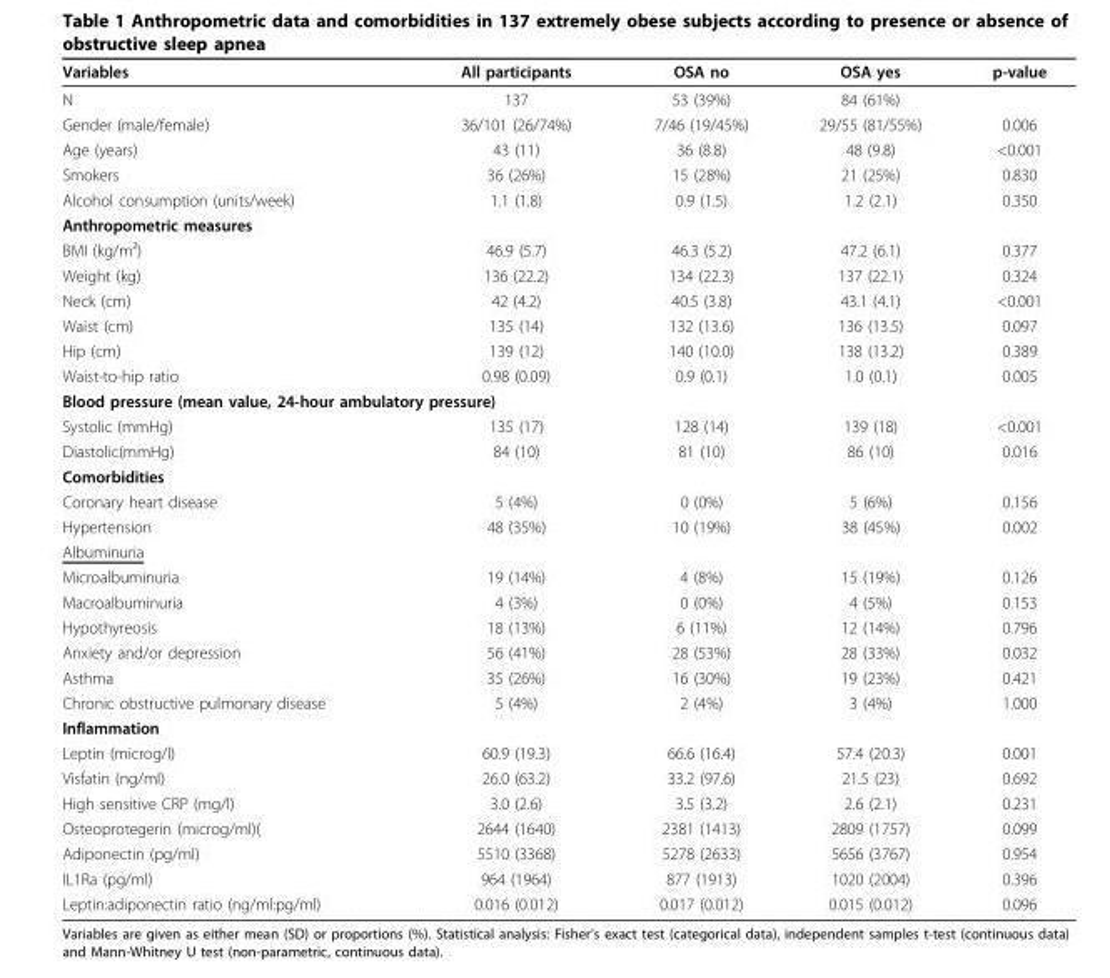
<table><thead><tr><td>Variables</td><td>All participants</td><td>OSA no</td><td>OSA yes</td><td>p-value</td></tr></thead><tbody><tr><td>N</td><td>137</td><td>53 (39%)</td><td>84 (61%)</td><td></td></tr><tr><td>Gender (male/female)</td><td>36/101 (26/74%)</td><td>7/46 (19/45%)</td><td>29/55 (81/55%)</td><td>0.006</td></tr><tr><td>Age (years)</td><td>43 (11)</td><td>36 (8.8)</td><td>48 (9.8)</td><td>&lt;0.001</td></tr><tr><td>Smokers</td><td>36 (26%)</td><td>15 (28%)</td><td>21 (25%)</td><td>0.830</td></tr><tr><td>Alcohol consumption (units/week)</td><td>1.1 (1.8)</td><td>0.9 (1.5)</td><td>1.2 (2.1)</td><td>0.350</td></tr><tr><td colspan="5">Anthropometric measures</td></tr><tr><td>BMI (kg/m²)</td><td>46.9 (5.7)</td><td>46.3 (5.2)</td><td>47.2 (6.1)</td><td>0.377</td></tr><tr><td>Weight (kg)</td><td>136 (22.2)</td><td>134 (22.3)</td><td>137 (22.1)</td><td>0.324</td></tr><tr><td>Neck (cm)</td><td>42 (4.2)</td><td>40.5 (3.8)</td><td>43.1 (4.1)</td><td>&lt;0.001</td></tr><tr><td>Waist (cm)</td><td>135 (14)</td><td>132 (13.6)</td><td>136 (13.5)</td><td>0.097</td></tr><tr><td>Hip (cm)</td><td>139 (12)</td><td>140 (10.0)</td><td>138 (13.2)</td><td>0.389</td></tr><tr><td>Waist-to-hip ratio</td><td>0.98 (0.09)</td><td>0.9 (0.1)</td><td>1.0 (0.1)</td><td>0.005</td></tr><tr><td colspan="5">Blood pressure (mean value, 24-hour ambulatory pressure)</td></tr><tr><td>Systolic (mmHg)</td><td>135 (17)</td><td>128 (14)</td><td>139 (18)</td><td>&lt;0.001</td></tr><tr><td>Diastolic(mmHg)</td><td>84 (10)</td><td>81 (10)</td><td>86 (10)</td><td>0.016</td></tr><tr><td colspan="5">Comorbidities</td></tr><tr><td>Coronary heart disease</td><td>5 (4%)</td><td>0 (0%)</td><td>5 (6%)</td><td>0.156</td></tr><tr><td>Hypertension</td><td>48 (35%)</td><td>10 (19%)</td><td>38 (45%)</td><td>0.002</td></tr><tr><td colspan="5">Albuminuria</td></tr><tr><td>Microalbuminuria</td><td>19 (14%)</td><td>4 (8%)</td><td>15 (19%)</td><td>0.126</td></tr><tr><td>Macroalbuminuria</td><td>4 (3%)</td><td>0 (0%)</td><td>4 (5%)</td><td>0.153</td></tr><tr><td>Hypothyreosis</td><td>18 (13%)</td><td>6 (11%)</td><td>12 (14%)</td><td>0.796</td></tr><tr><td>Anxiety and/or depression</td><td>56 (41%)</td><td>28 (53%)</td><td>28 (33%)</td><td>0.032</td></tr><tr><td>Asthma</td><td>35 (26%)</td><td>16 (30%)</td><td>19 (23%)</td><td>0.421</td></tr><tr><td>Chronic obstructive pulmonary disease</td><td>5 (4%)</td><td>2 (4%)</td><td>3 (4%)</td><td>1.000</td></tr><tr><td colspan="5">Inflammation</td></tr><tr><td>Leptin (microg/l)</td><td>60.9 (19.3)</td><td>66.6 (16.4)</td><td>57.4 (20.3)</td><td>0.001</td></tr><tr><td>Visfatin (ng/ml)</td><td>26.0 (63.2)</td><td>33.2 (97.6)</td><td>21.5 (23)</td><td>0.692</td></tr><tr><td>High sensitive CRP (mg/l)</td><td>3.0 (2.6)</td><td>3.5 (3.2)</td><td>2.6 (2.1)</td><td>0.231</td></tr><tr><td>Osteoprotegerin (microg/ml)(</td><td>2644 (1640)</td><td>2381 (1413)</td><td>2809 (1757)</td><td>0.099</td></tr><tr><td>Adiponectin (pg/ml)</td><td>5510 (3368)</td><td>5278 (2633)</td><td>5656 (3767)</td><td>0.954</td></tr><tr><td>IL1Ra (pg/ml)</td><td>964 (1964)</td><td>877 (1913)</td><td>1020 (2004)</td><td>0.396</td></tr><tr><td>Leptin:adiponectin ratio (ng/ml:pg/ml)</td><td>0.016 (0.012)</td><td>0.017 (0.012)</td><td>0.015 (0.012)</td><td>0.096</td></tr></tbody></table>